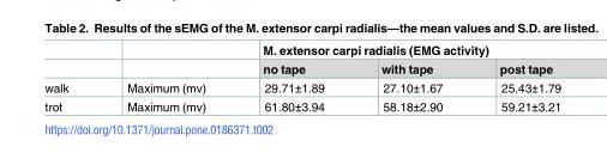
<table><thead><tr><td rowspan="2"></td><td rowspan="2"></td><td colspan="3">M. extensor carpi radialis (EMG activity)</td></tr><tr><td>no tape</td><td>with tape</td><td>post tape</td></tr></thead><tbody><tr><td>walk</td><td>Maximum (mv)</td><td>29.71±1.89</td><td>27.10±1.67</td><td>25.43±1.79</td></tr><tr><td>trot</td><td>Maximum (mv)</td><td>61.80±3.94</td><td>58.18±2.90</td><td>59.21±3.21</td></tr></tbody></table>